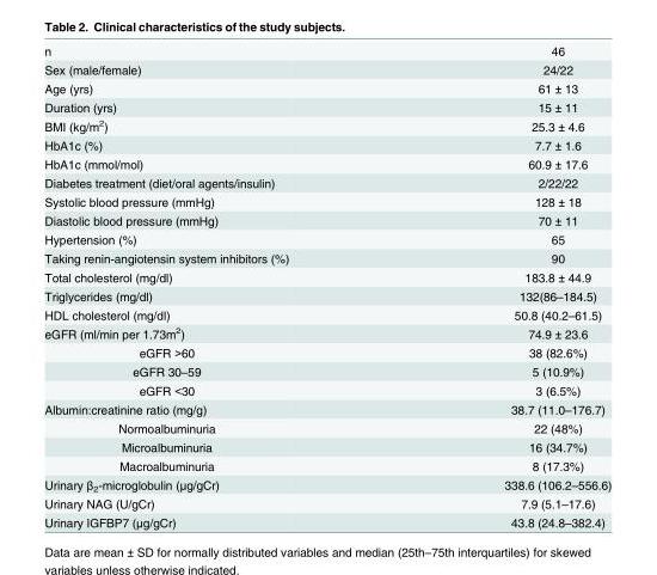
<table><tbody><tr><td>n</td><td>46</td></tr><tr><td>Sex (male/female)</td><td>24/22</td></tr><tr><td>Age (yrs)</td><td>61 ± 13</td></tr><tr><td>Duration (yrs)</td><td>15 ± 11</td></tr><tr><td>BMI (kg/m<sup>2</sup>)</td><td>25.3 ± 4.6</td></tr><tr><td>HbA1c (%)</td><td>7.7 ± 1.6</td></tr><tr><td>HbA1c (mmol/mol)</td><td>60.9 ± 17.6</td></tr><tr><td>Diabetes treatment (diet/oral agents/insulin)</td><td>2/22/22</td></tr><tr><td>Systolic blood pressure (mmHg)</td><td>128 ± 18</td></tr><tr><td>Diastolic blood pressure (mmHg)</td><td>70 ± 11</td></tr><tr><td>Hypertension (%)</td><td>65</td></tr><tr><td>Taking renin-angiotensin system inhibitors (%)</td><td>90</td></tr><tr><td>Total cholesterol (mg/dl)</td><td>183.8 ± 44.9</td></tr><tr><td>Triglycerides (mg/dl)</td><td>132(86–184.5)</td></tr><tr><td>HDL cholesterol (mg/dl)</td><td>50.8 (40.2–61.5)</td></tr><tr><td>eGFR (ml/min per 1.73m<sup>2</sup>)</td><td>74.9 ± 23.6</td></tr><tr><td>eGFR &gt;60</td><td>38 (82.6%)</td></tr><tr><td>eGFR 30–59</td><td>5 (10.9%)</td></tr><tr><td>eGFR &lt;30</td><td>3 (6.5%)</td></tr><tr><td>Albumin:creatinine ratio (mg/g)</td><td>38.7 (11.0–176.7)</td></tr><tr><td>Normoalbuminuria</td><td>22 (48%)</td></tr><tr><td>Microalbuminuria</td><td>16 (34.7%)</td></tr><tr><td>Macroalbuminuria</td><td>8 (17.3%)</td></tr><tr><td>Urinary β<sub>2</sub>-microglobulin (μg/gCr)</td><td>338.6 (106.2–556.6)</td></tr><tr><td>Urinary NAG (U/gCr)</td><td>7.9 (5.1–17.6)</td></tr><tr><td>Urinary IGFBP7 (μg/gCr)</td><td>43.8 (24.8–382.4)</td></tr></tbody></table>